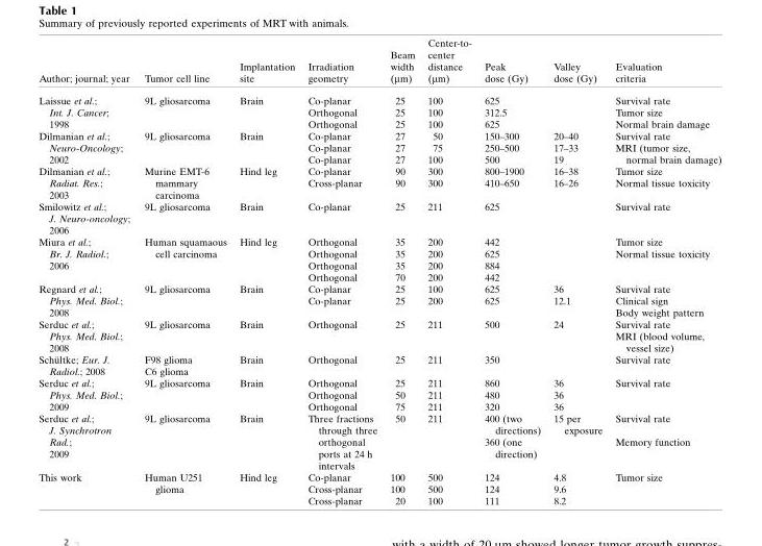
<table><thead><tr><td>Author; journal; year</td><td>Tumor cell line</td><td>Implantation site</td><td>Irradiation geometry</td><td>Beam width (µm)</td><td>Center-to- center distance (µm)</td><td>Peak dose (Gy)</td><td>Valley dose (Gy)</td><td>Evaluation criteria</td></tr></thead><tbody><tr><td rowspan="3">Laissue et al.; Int. J. Cancer; 1998</td><td rowspan="3">9L gliosarcoma</td><td rowspan="3">Brain</td><td>Co-planar</td><td>25</td><td>100</td><td>625</td><td></td><td>Survival rate</td></tr><tr><td>Orthogonal</td><td>25</td><td>100</td><td>312.5</td><td></td><td>Tumor size</td></tr><tr><td>Orthogonal</td><td>25</td><td>100</td><td>625</td><td></td><td>Normal brain damage</td></tr><tr><td rowspan="3">Dilmanian et al.; Neuro-Oncology; 2002</td><td rowspan="3">9L gliosarcoma</td><td rowspan="3">Brain</td><td>Co-planar</td><td>27</td><td>50</td><td>150–300</td><td>20–40</td><td>Survival rate</td></tr><tr><td>Co-planar</td><td>27</td><td>75</td><td>250–500</td><td>17–33</td><td rowspan="2">MRI (tumor size, normal brain damage)</td></tr><tr><td>Co-planar</td><td>27</td><td>100</td><td>500</td><td>19</td></tr><tr><td rowspan="2">Dilmanian et al.; Radiat. Res.; 2003</td><td rowspan="2">Murine EMT-6 mammary carcinoma</td><td rowspan="2">Hind leg</td><td>Co-planar</td><td>90</td><td>300</td><td>800–1900</td><td>16–38</td><td>Tumor size</td></tr><tr><td>Cross-planar</td><td>90</td><td>300</td><td>410–650</td><td>16–26</td><td>Normal tissue toxicity</td></tr><tr><td>Smilowitz et al.; J. Neuro-oncology; 2006</td><td>9L gliosarcoma</td><td>Brain</td><td>Co-planar</td><td>25</td><td>211</td><td>625</td><td></td><td>Survival rate</td></tr><tr><td rowspan="4">Miura et al.; Br. J. Radiol.; 2006</td><td rowspan="4">Human squamaous cell carcinoma</td><td rowspan="4">Hind leg</td><td>Orthogonal</td><td>35</td><td>200</td><td>442</td><td></td><td>Tumor size</td></tr><tr><td>Orthogonal</td><td>35</td><td>200</td><td>625</td><td></td><td>Normal tissue toxicity</td></tr><tr><td>Orthogonal</td><td>35</td><td>200</td><td>884</td><td></td><td></td></tr><tr><td>Orthogonal</td><td>70</td><td>200</td><td>442</td><td></td><td></td></tr><tr><td rowspan="3">Regnard et al.; Phys. Med. Biol.; 2008</td><td rowspan="3">9L gliosarcoma</td><td rowspan="3">Brain</td><td>Co-planar</td><td>25</td><td>100</td><td>625</td><td>36</td><td>Survival rate</td></tr><tr><td>Co-planar</td><td>25</td><td>200</td><td>625</td><td>12.1</td><td>Clinical sign</td></tr><tr><td></td><td></td><td></td><td></td><td></td><td>Body weight pattern</td></tr><tr><td rowspan="2">Serduc et al.; Phys. Med. Biol.; 2008</td><td rowspan="2">9L gliosarcoma</td><td rowspan="2">Brain</td><td>Orthogonal</td><td>25</td><td>211</td><td>500</td><td>24</td><td>Survival rate</td></tr><tr><td></td><td></td><td></td><td></td><td></td><td>MRI (blood volume, vessel size)</td></tr><tr><td rowspan="2">Schu¨ltke; Eur. J. Radiol.; 2008</td><td>F98 glioma</td><td rowspan="2">Brain</td><td>Orthogonal</td><td>25</td><td>211</td><td>350</td><td></td><td>Survival rate</td></tr><tr><td>C6 glioma</td><td></td><td></td><td></td><td></td><td></td><td></td></tr><tr><td rowspan="3">Serduc et al.; Phys. Med. Biol.; 2009</td><td rowspan="3">9L gliosarcoma</td><td rowspan="3">Brain</td><td>Orthogonal</td><td>25</td><td>211</td><td>860</td><td>36</td><td>Survival rate</td></tr><tr><td>Orthogonal</td><td>50</td><td>211</td><td>480</td><td>36</td><td></td></tr><tr><td>Orthogonal</td><td>75</td><td>211</td><td>320</td><td>36</td><td></td></tr><tr><td rowspan="2">Serduc et al.; J. Synchrotron Rad.; 2009</td><td rowspan="2">9L gliosarcoma</td><td rowspan="2">Brain</td><td rowspan="2">Three fractions through three orthogonal ports at 24 h intervals</td><td>50</td><td>211</td><td>400 (two directions)</td><td>15 per exposure</td><td>Survival rate</td></tr><tr><td></td><td></td><td>360 (one direction)</td><td></td><td>Memory function</td></tr><tr><td rowspan="3">This work</td><td rowspan="3">Human U251 glioma</td><td>Hind leg</td><td>Co-planar</td><td>100</td><td>500</td><td>124</td><td>4.8</td><td>Tumor size</td></tr><tr><td></td><td>Cross-planar</td><td>100</td><td>500</td><td>124</td><td>9.6</td><td></td></tr><tr><td></td><td>Cross-planar</td><td>20</td><td>100</td><td>111</td><td>8.2</td><td></td></tr></tbody></table>